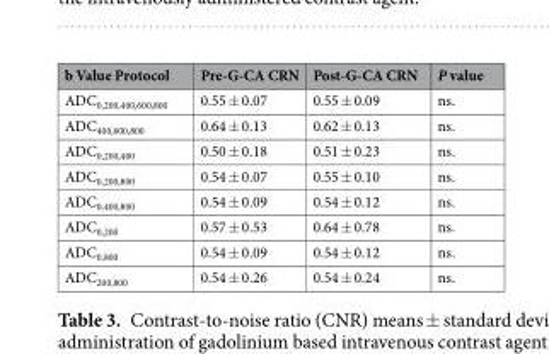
<table><thead><tr><td>b Value Protocol</td><td>Pre-G-CA CRN</td><td>Post-G-CA CRN</td><td>P value</td></tr></thead><tbody><tr><td>ADC<sub>0,200,400,600,800</sub></td><td>0.55 ± 0.07</td><td>0.55 ± 0.09</td><td>ns.</td></tr><tr><td>ADC<sub>400,600,800</sub></td><td>0.64 ± 0.13</td><td>0.62 ± 0.13</td><td>ns.</td></tr><tr><td>ADC<sub>0,200,400</sub></td><td>0.50 ± 0.18</td><td>0.51 ± 0.23</td><td>ns.</td></tr><tr><td>ADC<sub>0,200,800</sub></td><td>0.54 ± 0.07</td><td>0.55 ± 0.10</td><td>ns.</td></tr><tr><td>ADC<sub>0,400,800</sub></td><td>0.54 ± 0.09</td><td>0.54 ± 0.12</td><td>ns.</td></tr><tr><td>ADC<sub>0,200</sub></td><td>0.57 ± 0.53</td><td>0.64 ± 0.78</td><td>ns.</td></tr><tr><td>ADC<sub>0,800</sub></td><td>0.54 ± 0.09</td><td>0.54 ± 0.12</td><td>ns.</td></tr><tr><td>ADC<sub>200,800</sub></td><td>0.54 ± 0.26</td><td>0.54 ± 0.24</td><td>ns.</td></tr></tbody></table>